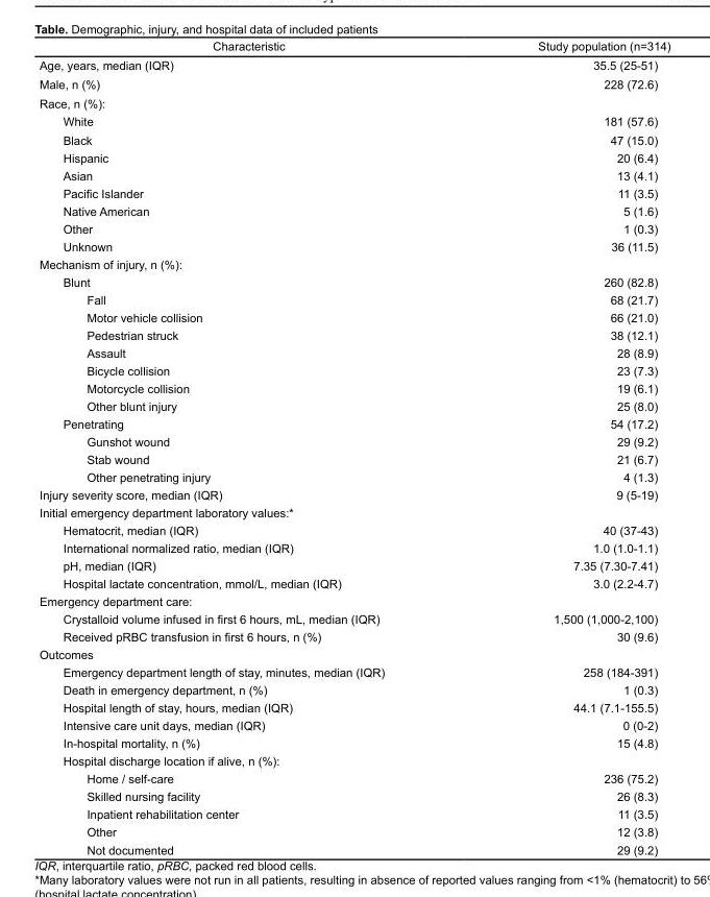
<table><thead><tr><td>Characteristic</td><td>Study population (n=314)</td></tr></thead><tbody><tr><td>Age, years, median (IQR)</td><td>35.5 (25-51)</td></tr><tr><td>Male, n (%)</td><td>228 (72.6)</td></tr><tr><td colspan="2">Race, n (%):</td></tr><tr><td>White</td><td>181 (57.6)</td></tr><tr><td>Black</td><td>47 (15.0)</td></tr><tr><td>Hispanic</td><td>20 (6.4)</td></tr><tr><td>Asian</td><td>13 (4.1)</td></tr><tr><td>Pacific Islander</td><td>11 (3.5)</td></tr><tr><td>Native American</td><td>5 (1.6)</td></tr><tr><td>Other</td><td>1 (0.3)</td></tr><tr><td>Unknown</td><td>36 (11.5)</td></tr><tr><td colspan="2">Mechanism of injury, n (%):</td></tr><tr><td>Blunt</td><td>260 (82.8)</td></tr><tr><td>Fall</td><td>68 (21.7)</td></tr><tr><td>Motor vehicle collision</td><td>66 (21.0)</td></tr><tr><td>Pedestrian struck</td><td>38 (12.1)</td></tr><tr><td>Assault</td><td>28 (8.9)</td></tr><tr><td>Bicycle collision</td><td>23 (7.3)</td></tr><tr><td>Motorcycle collision</td><td>19 (6.1)</td></tr><tr><td>Other blunt injury</td><td>25 (8.0)</td></tr><tr><td>Penetrating</td><td>54 (17.2)</td></tr><tr><td>Gunshot wound</td><td>29 (9.2)</td></tr><tr><td>Stab wound</td><td>21 (6.7)</td></tr><tr><td>Other penetrating injury</td><td>4 (1.3)</td></tr><tr><td>Injury severity score, median (IQR)</td><td>9 (5-19)</td></tr><tr><td colspan="2">Initial emergency department laboratory values:*</td></tr><tr><td>Hematocrit, median (IQR)</td><td>40 (37-43)</td></tr><tr><td>International normalized ratio, median (IQR)</td><td>1.0 (1.0-1.1)</td></tr><tr><td>pH, median (IQR)</td><td>7.35 (7.30-7.41)</td></tr><tr><td>Hospital lactate concentration, mmol/L, median (IQR)</td><td>3.0 (2.2-4.7)</td></tr><tr><td colspan="2">Emergency department care:</td></tr><tr><td>Crystalloid volume infused in first 6 hours, mL, median (IQR)</td><td>1,500 (1,000-2,100)</td></tr><tr><td>Received pRBC transfusion in first 6 hours, n (%)</td><td>30 (9.6)</td></tr><tr><td colspan="2">Outcomes</td></tr><tr><td>Emergency department length of stay, minutes, median (IQR)</td><td>258 (184-391)</td></tr><tr><td>Death in emergency department, n (%)</td><td>1 (0.3)</td></tr><tr><td>Hospital length of stay, hours, median (IQR)</td><td>44.1 (7.1-155.5)</td></tr><tr><td>Intensive care unit days, median (IQR)</td><td>0 (0-2)</td></tr><tr><td>In-hospital mortality, n (%)</td><td>15 (4.8)</td></tr><tr><td colspan="2">Hospital discharge location if alive, n (%):</td></tr><tr><td>Home / self-care</td><td>236 (75.2)</td></tr><tr><td>Skilled nursing facility</td><td>26 (8.3)</td></tr><tr><td>Inpatient rehabilitation center</td><td>11 (3.5)</td></tr><tr><td>Other</td><td>12 (3.8)</td></tr><tr><td>Not documented</td><td>29 (9.2)</td></tr></tbody></table>